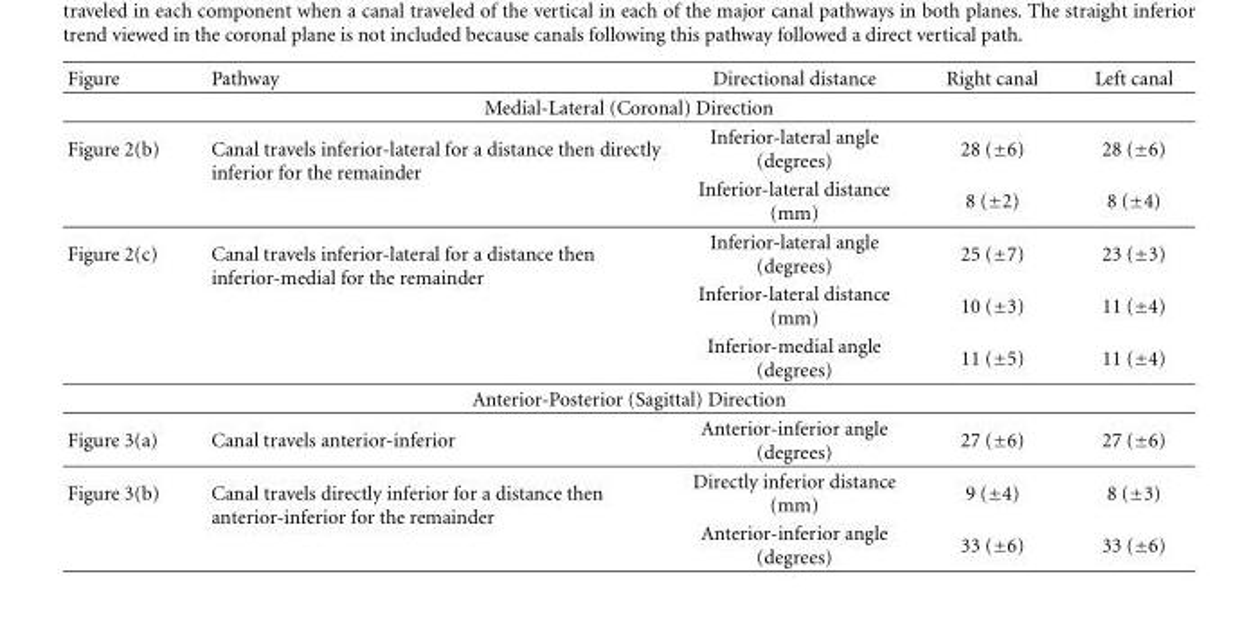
<table><thead><tr><td>Figure</td><td>Pathway</td><td>Directional distance</td><td>Right canal</td><td>Left canal</td></tr></thead><tbody><tr><td colspan="5">Medial-Lateral (Coronal) Direction</td></tr><tr><td rowspan="2">Figure 2(b)</td><td rowspan="2">Canal travels inferior-lateral for a distance then directly inferior for the remainder</td><td>Inferior-lateral angle (degrees)</td><td>28 (±6)</td><td>28 (±6)</td></tr><tr><td>Inferior-lateral distance (mm)</td><td>8 (±2)</td><td>8 (±4)</td></tr><tr><td rowspan="3">Figure 2(c)</td><td rowspan="2">Canal travels inferior-lateral for a distance then inferior-medial for the remainder</td><td>Inferior-lateral angle (degrees)</td><td>25 (±7)</td><td>23 (±3)</td></tr><tr><td>Inferior-lateral distance (mm)</td><td>10 (±3)</td><td>11 (±4)</td></tr><tr><td></td><td>Inferior-medial angle (degrees)</td><td>11 (±5)</td><td>11 (±4)</td></tr><tr><td colspan="5">Anterior-Posterior (Sagittal) Direction</td></tr><tr><td>Figure 3(a)</td><td>Canal travels anterior-inferior</td><td>Anterior-inferior angle (degrees)</td><td>27 (±6)</td><td>27 (±6)</td></tr><tr><td rowspan="2">Figure 3(b)</td><td rowspan="2">Canal travels directly inferior for a distance then anterior-inferior for the remainder</td><td>Directly inferior distance (mm)</td><td>9 (±4)</td><td>8 (±3)</td></tr><tr><td>Anterior-inferior angle (degrees)</td><td>33 (±6)</td><td>33 (±6)</td></tr></tbody></table>